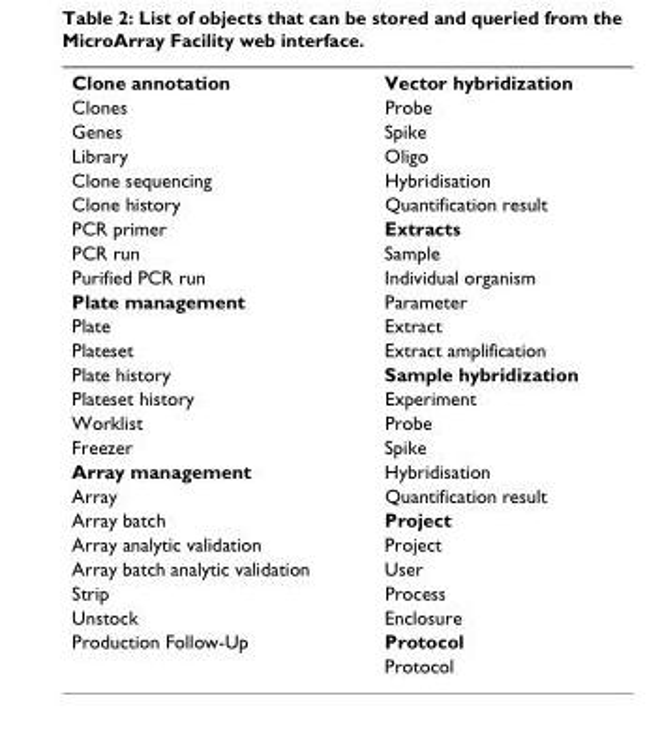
<table><tbody><tr><td>Clone annotation</td><td>Vector hybridization</td></tr><tr><td>Clones</td><td>Probe</td></tr><tr><td>Genes</td><td>Spike</td></tr><tr><td>Library</td><td>Oligo</td></tr><tr><td>Clone sequencing</td><td>Hybridisation</td></tr><tr><td>Clone history</td><td>Quantification result</td></tr><tr><td>PCR primer</td><td>Extracts</td></tr><tr><td>PCR run</td><td>Sample</td></tr><tr><td>Purified PCR run</td><td>Individual organism</td></tr><tr><td>Plate management</td><td>Parameter</td></tr><tr><td>Plate</td><td>Extract</td></tr><tr><td>Plateset</td><td>Extract amplification</td></tr><tr><td>Plate history</td><td>Sample hybridization</td></tr><tr><td>Plateset history</td><td>Experiment</td></tr><tr><td>Worklist</td><td>Probe</td></tr><tr><td>Freezer</td><td>Spike</td></tr><tr><td>Array management</td><td>Hybridisation</td></tr><tr><td>Array</td><td>Quantification result</td></tr><tr><td>Array batch</td><td>Project</td></tr><tr><td>Array analytic validation</td><td>Project</td></tr><tr><td>Array batch analytic validation</td><td>User</td></tr><tr><td>Strip</td><td>Process</td></tr><tr><td>Unstock</td><td>Enclosure</td></tr><tr><td rowspan="2">Production Follow-Up</td><td>Protocol</td></tr><tr><td>Protocol</td></tr></tbody></table>